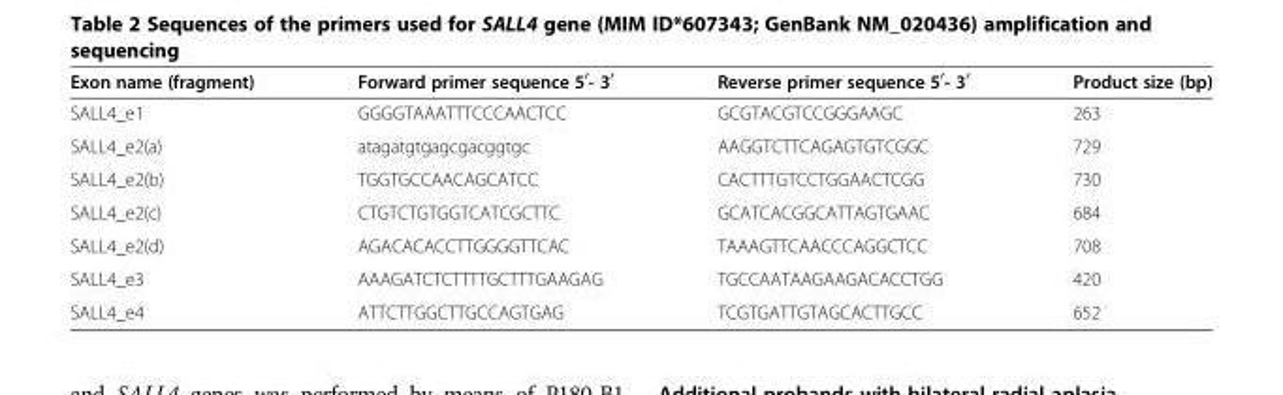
<table><thead><tr><td>Exon name (fragment)</td><td>Forward primer sequence 5<sup>′</sup>- 3<sup>′</sup></td><td>Reverse primer sequence 5<sup>′</sup>- 3<sup>′</sup></td><td>Product size (bp)</td></tr></thead><tbody><tr><td>SALL4_e1</td><td>GGGGTAAATTTCCCAACTCC</td><td>GCGTACGTCCGGGAAGC</td><td>263</td></tr><tr><td>SALL4_e2(a)</td><td>atagatgtgagcgacggtgc</td><td>AAGGTCTTCAGAGTGTCGGC</td><td>729</td></tr><tr><td>SALL4_e2(b)</td><td>TGGTGCCAACAGCATCC</td><td>CACTTTGTCCTGGAACTCGG</td><td>730</td></tr><tr><td>SALL4_e2(c)</td><td>CTGTCTGTGGTCATCGCTTC</td><td>GCATCACGGCATTAGTGAAC</td><td>684</td></tr><tr><td>SALL4_e2(d)</td><td>AGACACACCTTGGGGTTCAC</td><td>TAAAGTTCAACCCAGGCTCC</td><td>708</td></tr><tr><td>SALL4_e3</td><td>AAAGATCTCTTTTGCTTTGAAGAG</td><td>TGCCAATAAGAAGACACCTGG</td><td>420</td></tr><tr><td>SALL4_e4</td><td>ATTCTTGGCTTGCCAGTGAG</td><td>TCGTGATTGTAGCACTTGCC</td><td>652</td></tr></tbody></table>